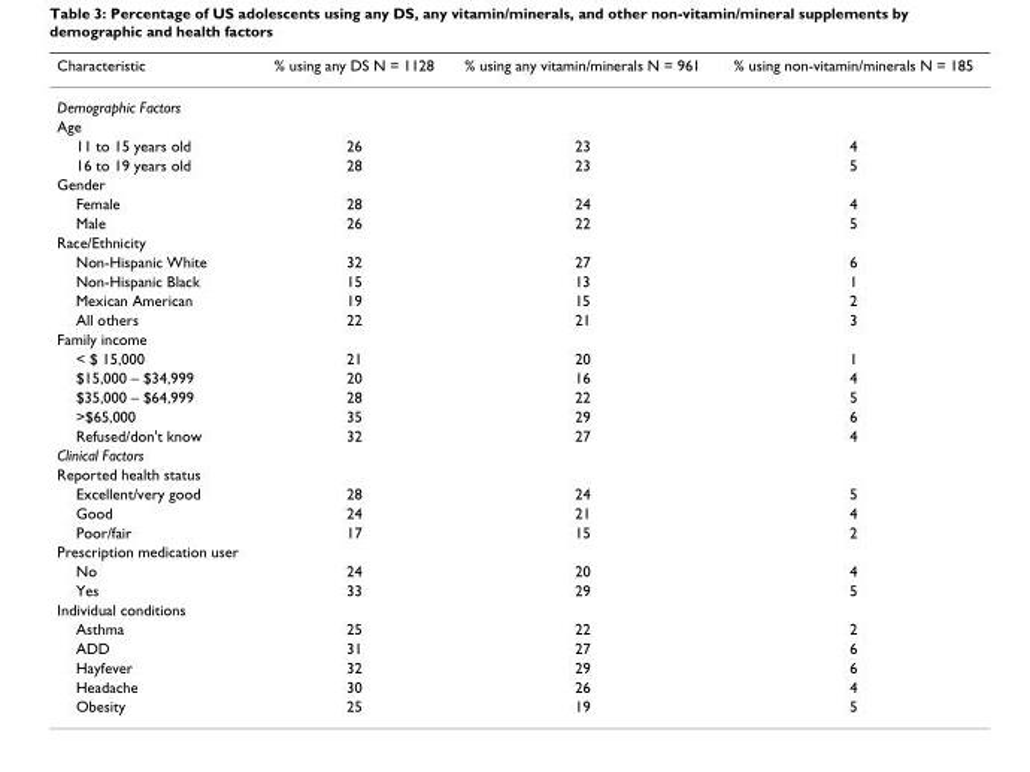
<table><thead><tr><td>Characteristic</td><td>% using any DS N = 1128</td><td>% using any vitamin/minerals N = 961</td><td>% using non-vitamin/minerals N = 185</td></tr></thead><tbody><tr><td colspan="4">Demographic Factors</td></tr><tr><td colspan="4">Age</td></tr><tr><td>11 to 15 years old</td><td>26</td><td>23</td><td>4</td></tr><tr><td>16 to 19 years old</td><td>28</td><td>23</td><td>5</td></tr><tr><td colspan="4">Gender</td></tr><tr><td>Female</td><td>28</td><td>24</td><td>4</td></tr><tr><td>Male</td><td>26</td><td>22</td><td>5</td></tr><tr><td colspan="4">Race/Ethnicity</td></tr><tr><td>Non-Hispanic White</td><td>32</td><td>27</td><td>6</td></tr><tr><td>Non-Hispanic Black</td><td>15</td><td>13</td><td>1</td></tr><tr><td>Mexican American</td><td>19</td><td>15</td><td>2</td></tr><tr><td>All others</td><td>22</td><td>21</td><td>3</td></tr><tr><td colspan="4">Family income</td></tr><tr><td>&lt; $ 15,000</td><td>21</td><td>20</td><td>1</td></tr><tr><td>$15,000 – $34,999</td><td>20</td><td>16</td><td>4</td></tr><tr><td>$35,000 – $64,999</td><td>28</td><td>22</td><td>5</td></tr><tr><td>&gt;$65,000</td><td>35</td><td>29</td><td>6</td></tr><tr><td>Refused/don&#x27;t know</td><td>32</td><td>27</td><td>4</td></tr><tr><td colspan="4">Clinical Factors</td></tr><tr><td colspan="4">Reported health status</td></tr><tr><td>Excellent/very good</td><td>28</td><td>24</td><td>5</td></tr><tr><td>Good</td><td>24</td><td>21</td><td>4</td></tr><tr><td>Poor/fair</td><td>17</td><td>15</td><td>2</td></tr><tr><td colspan="4">Prescription medication user</td></tr><tr><td>No</td><td>24</td><td>20</td><td>4</td></tr><tr><td>Yes</td><td>33</td><td>29</td><td>5</td></tr><tr><td colspan="4">Individual conditions</td></tr><tr><td>Asthma</td><td>25</td><td>22</td><td>2</td></tr><tr><td>ADD</td><td>31</td><td>27</td><td>6</td></tr><tr><td>Hayfever</td><td>32</td><td>29</td><td>6</td></tr><tr><td>Headache</td><td>30</td><td>26</td><td>4</td></tr><tr><td>Obesity</td><td>25</td><td>19</td><td>5</td></tr></tbody></table>